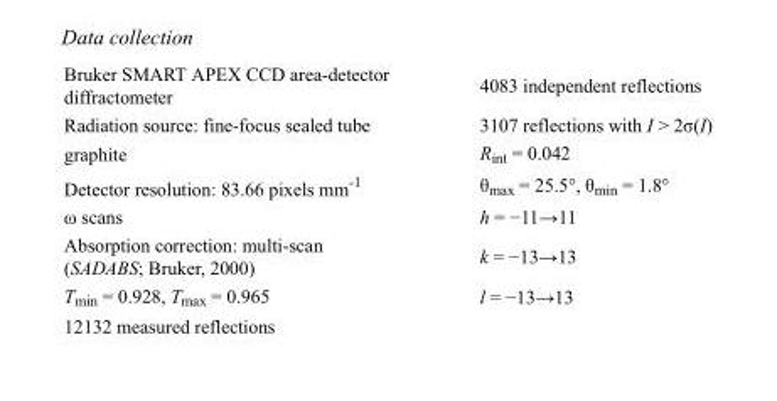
<table><tbody><tr><td>Bruker SMART APEX CCD area-detector diffractometer</td><td>4083 independent reflections</td></tr><tr><td>Radiation source: fine-focus sealed tube</td><td>3107 reflections with I &gt; 2σ(I)</td></tr><tr><td>graphite</td><td>R<sub>int</sub> = 0.042</td></tr><tr><td>Detector resolution: 83.66 pixels mm<sup>-1</sup></td><td>θ<sub>max</sub> = 25.5°, θ<sub>min</sub> = 1.8°</td></tr><tr><td>ω scans</td><td>h = −11→11</td></tr><tr><td>Absorption correction: multi-scan (SADABS; Bruker, 2000)</td><td>k = −13→13</td></tr><tr><td>T<sub>min</sub> = 0.928, T<sub>max</sub> = 0.965</td><td>l = −13→13</td></tr><tr><td>12132 measured reflections</td><td></td></tr></tbody></table>